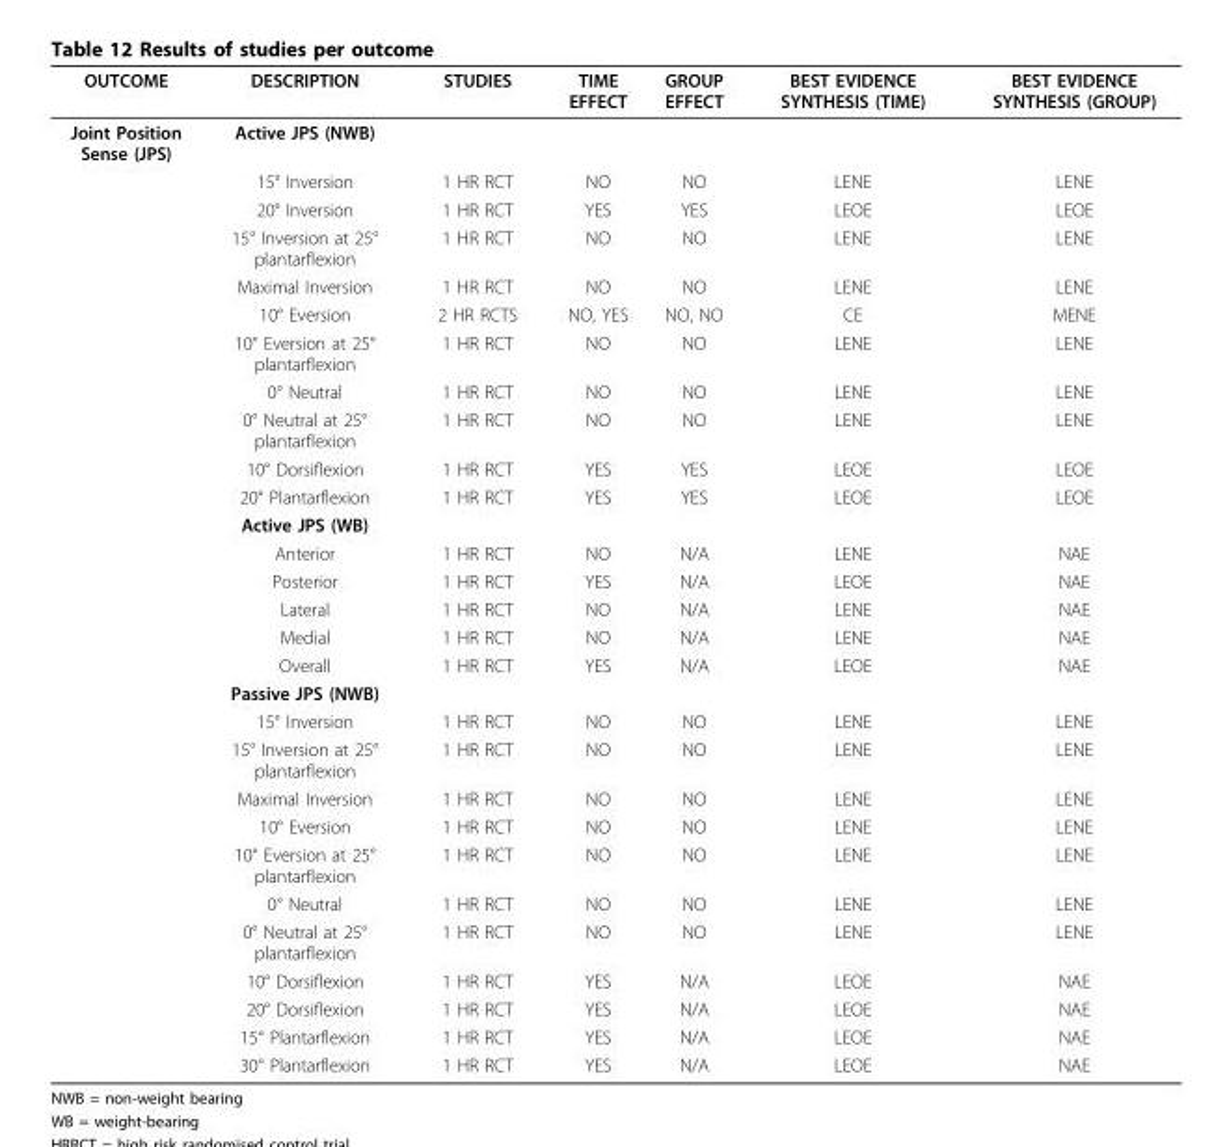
<table><thead><tr><td>OUTCOME</td><td>DESCRIPTION</td><td>STUDIES</td><td>TIME EFFECT</td><td>GROUP EFFECT</td><td>BEST EVIDENCE SYNTHESIS (TIME)</td><td>BEST EVIDENCE SYNTHESIS (GROUP)</td></tr></thead><tbody><tr><td rowspan="29">Joint Position Sense (JPS)</td><td>Active JPS (NWB)</td><td></td><td></td><td></td><td></td><td></td></tr><tr><td>15° Inversion</td><td>1 HR RCT</td><td>NO</td><td>NO</td><td>LENE</td><td>LENE</td></tr><tr><td>20° Inversion</td><td>1 HR RCT</td><td>YES</td><td>YES</td><td>LEOE</td><td>LEOE</td></tr><tr><td>15° Inversion at 25° plantarflexion</td><td>1 HR RCT</td><td>NO</td><td>NO</td><td>LENE</td><td>LENE</td></tr><tr><td>Maximal Inversion</td><td>1 HR RCT</td><td>NO</td><td>NO</td><td>LENE</td><td>LENE</td></tr><tr><td>10° Eversion</td><td>2 HR RCTS</td><td>NO, YES</td><td>NO, NO</td><td>CE</td><td>MENE</td></tr><tr><td>10° Eversion at 25° plantarflexion</td><td>1 HR RCT</td><td>NO</td><td>NO</td><td>LENE</td><td>LENE</td></tr><tr><td>0° Neutral</td><td>1 HR RCT</td><td>NO</td><td>NO</td><td>LENE</td><td>LENE</td></tr><tr><td>0° Neutral at 25° plantarflexion</td><td>1 HR RCT</td><td>NO</td><td>NO</td><td>LENE</td><td>LENE</td></tr><tr><td>10° Dorsiflexion</td><td>1 HR RCT</td><td>YES</td><td>YES</td><td>LEOE</td><td>LEOE</td></tr><tr><td>20° Plantarflexion</td><td>1 HR RCT</td><td>YES</td><td>YES</td><td>LEOE</td><td>LEOE</td></tr><tr><td>Active JPS (WB)</td><td></td><td></td><td></td><td></td><td></td></tr><tr><td>Anterior</td><td>1 HR RCT</td><td>NO</td><td>N/A</td><td>LENE</td><td>NAE</td></tr><tr><td>Posterior</td><td>1 HR RCT</td><td>YES</td><td>N/A</td><td>LEOE</td><td>NAE</td></tr><tr><td>Lateral</td><td>1 HR RCT</td><td>NO</td><td>N/A</td><td>LENE</td><td>NAE</td></tr><tr><td>Medial</td><td>1 HR RCT</td><td>NO</td><td>N/A</td><td>LENE</td><td>NAE</td></tr><tr><td>Overall</td><td>1 HR RCT</td><td>YES</td><td>N/A</td><td>LEOE</td><td>NAE</td></tr><tr><td>Passive JPS (NWB)</td><td></td><td></td><td></td><td></td><td></td></tr><tr><td>15° Inversion</td><td>1 HR RCT</td><td>NO</td><td>NO</td><td>LENE</td><td>LENE</td></tr><tr><td>15° Inversion at 25° plantarflexion</td><td>1 HR RCT</td><td>NO</td><td>NO</td><td>LENE</td><td>LENE</td></tr><tr><td>Maximal Inversion</td><td>1 HR RCT</td><td>NO</td><td>NO</td><td>LENE</td><td>LENE</td></tr><tr><td>10° Eversion</td><td>1 HR RCT</td><td>NO</td><td>NO</td><td>LENE</td><td>LENE</td></tr><tr><td>10° Eversion at 25° plantarflexion</td><td>1 HR RCT</td><td>NO</td><td>NO</td><td>LENE</td><td>LENE</td></tr><tr><td>0° Neutral</td><td>1 HR RCT</td><td>NO</td><td>NO</td><td>LENE</td><td>LENE</td></tr><tr><td>0° Neutral at 25° plantarflexion</td><td>1 HR RCT</td><td>NO</td><td>NO</td><td>LENE</td><td>LENE</td></tr><tr><td>10° Dorsiflexion</td><td>1 HR RCT</td><td>YES</td><td>N/A</td><td>LEOE</td><td>NAE</td></tr><tr><td>20° Dorsiflexion</td><td>1 HR RCT</td><td>YES</td><td>N/A</td><td>LEOE</td><td>NAE</td></tr><tr><td>15° Plantarflexion</td><td>1 HR RCT</td><td>YES</td><td>N/A</td><td>LEOE</td><td>NAE</td></tr><tr><td>30° Plantarflexion</td><td>1 HR RCT</td><td>YES</td><td>N/A</td><td>LEOE</td><td>NAE</td></tr></tbody></table>